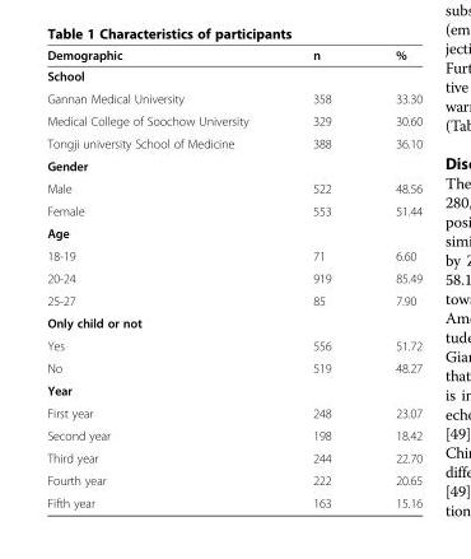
<table><thead><tr><td>Demographic</td><td>n</td><td>%</td></tr></thead><tbody><tr><td colspan="3">School</td></tr><tr><td>Gannan Medical University</td><td>358</td><td>33.30</td></tr><tr><td>Medical College of Soochow University</td><td>329</td><td>30.60</td></tr><tr><td>Tongji university School of Medicine</td><td>388</td><td>36.10</td></tr><tr><td colspan="3">Gender</td></tr><tr><td>Male</td><td>522</td><td>48.56</td></tr><tr><td>Female</td><td>553</td><td>51.44</td></tr><tr><td colspan="3">Age</td></tr><tr><td>18-19</td><td>71</td><td>6.60</td></tr><tr><td>20-24</td><td>919</td><td>85.49</td></tr><tr><td>25-27</td><td>85</td><td>7.90</td></tr><tr><td colspan="3">Only child or not</td></tr><tr><td>Yes</td><td>556</td><td>51.72</td></tr><tr><td>No</td><td>519</td><td>48.27</td></tr><tr><td colspan="3">Year</td></tr><tr><td>First year</td><td>248</td><td>23.07</td></tr><tr><td>Second year</td><td>198</td><td>18.42</td></tr><tr><td>Third year</td><td>244</td><td>22.70</td></tr><tr><td>Fourth year</td><td>222</td><td>20.65</td></tr><tr><td>Fifth year</td><td>163</td><td>15.16</td></tr></tbody></table>